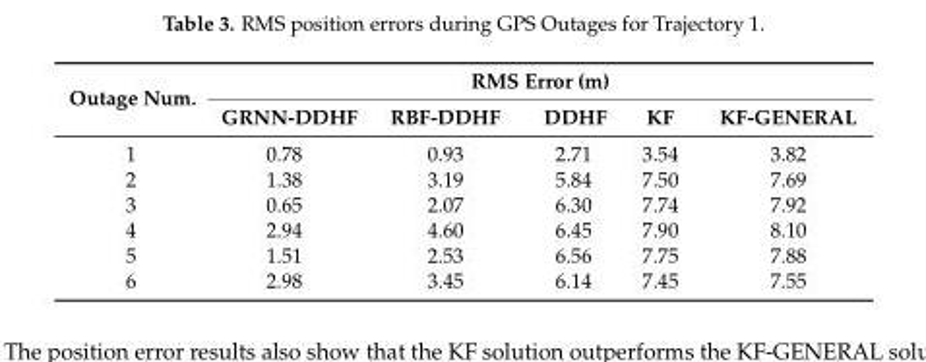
<table><thead><tr><td rowspan="2">Outage Num.</td><td colspan="5">RMS Error (m)</td></tr><tr><td>GRNN-DDHF</td><td>RBF-DDHF</td><td>DDHF</td><td>KF</td><td>KF-GENERAL</td></tr></thead><tbody><tr><td>1</td><td>0.78</td><td>0.93</td><td>2.71</td><td>3.54</td><td>3.82</td></tr><tr><td>2</td><td>1.38</td><td>3.19</td><td>5.84</td><td>7.50</td><td>7.69</td></tr><tr><td>3</td><td>0.65</td><td>2.07</td><td>6.30</td><td>7.74</td><td>7.92</td></tr><tr><td>4</td><td>2.94</td><td>4.60</td><td>6.45</td><td>7.90</td><td>8.10</td></tr><tr><td>5</td><td>1.51</td><td>2.53</td><td>6.56</td><td>7.75</td><td>7.88</td></tr><tr><td>6</td><td>2.98</td><td>3.45</td><td>6.14</td><td>7.45</td><td>7.55</td></tr></tbody></table>